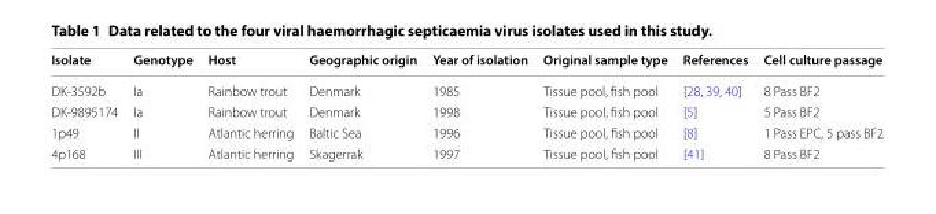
<table><thead><tr><td>Isolate</td><td>Genotype</td><td>Host</td><td>Geographic origin</td><td>Year of isolation</td><td>Original sample type</td><td>References</td><td>Cell culture passage</td></tr></thead><tbody><tr><td>DK‑3592b</td><td>Ia</td><td>Rainbow trout</td><td>Denmark</td><td>1985</td><td>Tissue pool, fish pool</td><td>[28, 39, 40]</td><td>8 Pass BF2</td></tr><tr><td>DK‑9895174</td><td>Ia</td><td>Rainbow trout</td><td>Denmark</td><td>1998</td><td>Tissue pool, fish pool</td><td>[5]</td><td>5 Pass BF2</td></tr><tr><td>1p49</td><td>II</td><td>Atlantic herring</td><td>Baltic Sea</td><td>1996</td><td>Tissue pool, fish pool</td><td>[8]</td><td>1 Pass EPC, 5 pass BF2</td></tr><tr><td>4p168</td><td>III</td><td>Atlantic herring</td><td>Skagerrak</td><td>1997</td><td>Tissue pool, fish pool</td><td>[41]</td><td>8 Pass BF2</td></tr></tbody></table>